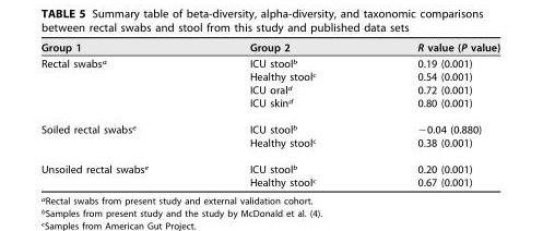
<table><thead><tr><td>Group 1</td><td>Group 2</td><td>R value (P value)</td></tr></thead><tbody><tr><td rowspan="4">Rectal swabs<sup>a</sup></td><td>ICU stool<sup>b</sup></td><td>0.19 (0.001)</td></tr><tr><td>Healthy stool<sup>c</sup></td><td>0.54 (0.001)</td></tr><tr><td>ICU oral<sup>d</sup></td><td>0.72 (0.001)</td></tr><tr><td>ICU skin<sup>d</sup></td><td>0.80 (0.001)</td></tr><tr><td rowspan="2">Soiled rectal swabs<sup>e</sup></td><td>ICU stool<sup>b</sup></td><td>−0.04 (0.880)</td></tr><tr><td>Healthy stool<sup>c</sup></td><td>0.38 (0.001)</td></tr><tr><td rowspan="2">Unsoiled rectal swabs<sup>e</sup></td><td>ICU stool<sup>b</sup></td><td>0.20 (0.001)</td></tr><tr><td>Healthy stool<sup>c</sup></td><td>0.67 (0.001)</td></tr></tbody></table>